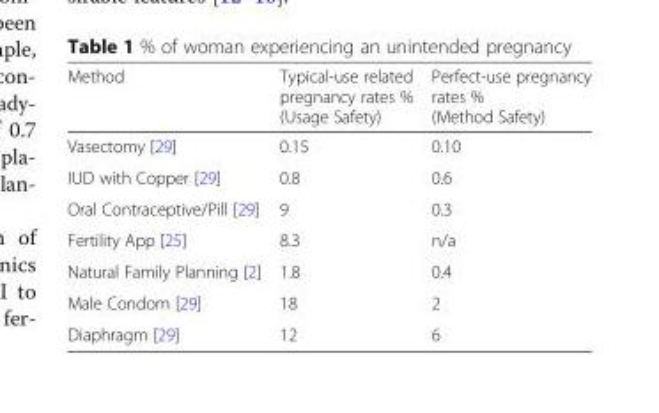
<table><thead><tr><td>Method</td><td>Typical-use related pregnancy rates % (Usage Safety)</td><td>Perfect-use pregnancy rates % (Method Safety)</td></tr></thead><tbody><tr><td>Vasectomy [29]</td><td>0.15</td><td>0.10</td></tr><tr><td>IUD with Copper [29]</td><td>0.8</td><td>0.6</td></tr><tr><td>Oral Contraceptive/Pill [29]</td><td>9</td><td>0.3</td></tr><tr><td>Fertility App [25]</td><td>8.3</td><td>n/a</td></tr><tr><td>Natural Family Planning [2]</td><td>1.8</td><td>0.4</td></tr><tr><td>Male Condom [29]</td><td>18</td><td>2</td></tr><tr><td>Diaphragm [29]</td><td>12</td><td>6</td></tr></tbody></table>